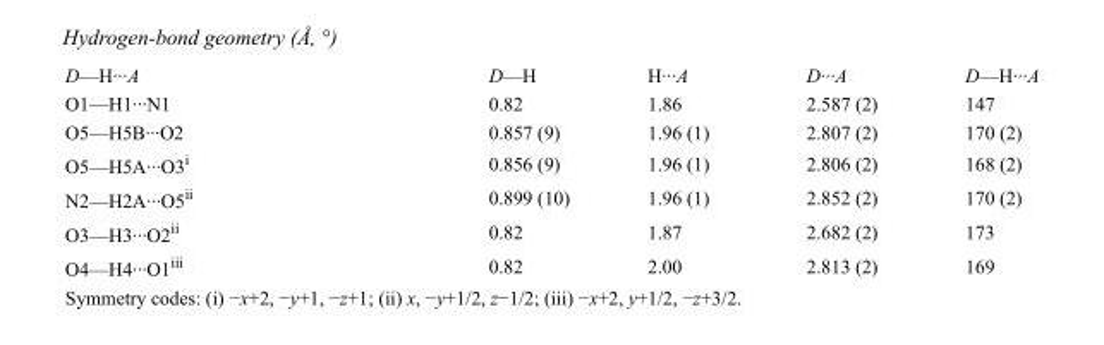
<table><tbody><tr><td>D—H···A</td><td>D—H</td><td>H···A</td><td>D···A</td><td>D—H···A</td></tr><tr><td>O1—H1···N1</td><td>0.82</td><td>1.86</td><td>2.587 (2)</td><td>147</td></tr><tr><td>O5—H5B···O2</td><td>0.857 (9)</td><td>1.96 (1)</td><td>2.807 (2)</td><td>170 (2)</td></tr><tr><td>O5—H5A···O3<sup>i</sup></td><td>0.856 (9)</td><td>1.96 (1)</td><td>2.806 (2)</td><td>168 (2)</td></tr><tr><td>N2—H2A···O5<sup>ii</sup></td><td>0.899 (10)</td><td>1.96 (1)</td><td>2.852 (2)</td><td>170 (2)</td></tr><tr><td>O3—H3···O2<sup>ii</sup></td><td>0.82</td><td>1.87</td><td>2.682 (2)</td><td>173</td></tr><tr><td>O4—H4···O1<sup>iii</sup></td><td>0.82</td><td>2.00</td><td>2.813 (2)</td><td>169</td></tr></tbody></table>